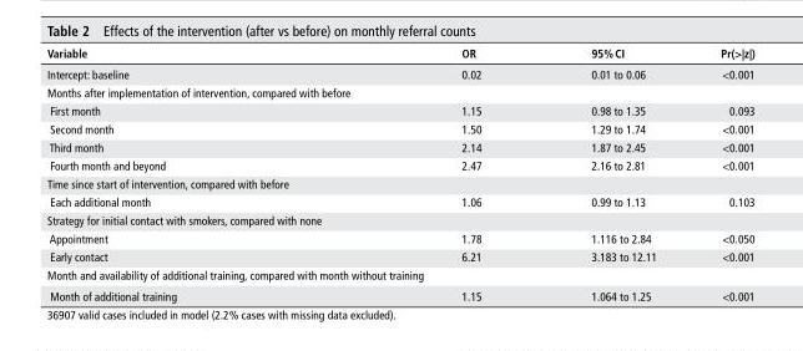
<table><thead><tr><td>Variable</td><td>Or</td><td>95% cI</td><td>Pr(&gt;|z|)</td></tr></thead><tbody><tr><td>Intercept: baseline</td><td>0.02</td><td>0.01 to 0.06</td><td>&lt;0.001</td></tr><tr><td colspan="4">Months after implementation of intervention, compared with before</td></tr><tr><td>First month</td><td>1.15</td><td>0.98 to 1.35</td><td>0.093</td></tr><tr><td>Second month</td><td>1.50</td><td>1.29 to 1.74</td><td>&lt;0.001</td></tr><tr><td>Third month</td><td>2.14</td><td>1.87 to 2.45</td><td>&lt;0.001</td></tr><tr><td>Fourth month and beyond</td><td>2.47</td><td>2.16 to 2.81</td><td>&lt;0.001</td></tr><tr><td colspan="4">Time since start of intervention, compared with before</td></tr><tr><td>Each additional month</td><td>1.06</td><td>0.99 to 1.13</td><td>0.103</td></tr><tr><td colspan="4">Strategy for initial contact with smokers, compared with none</td></tr><tr><td>Appointment</td><td>1.78</td><td>1.116 to 2.84</td><td>&lt;0.050</td></tr><tr><td>Early contact</td><td>6.21</td><td>3.183 to 12.11</td><td>&lt;0.001</td></tr><tr><td colspan="4">Month and availability of additional training, compared with month without training</td></tr><tr><td>Month of additional training</td><td>1.15</td><td>1.064 to 1.25</td><td>&lt;0.001</td></tr></tbody></table>